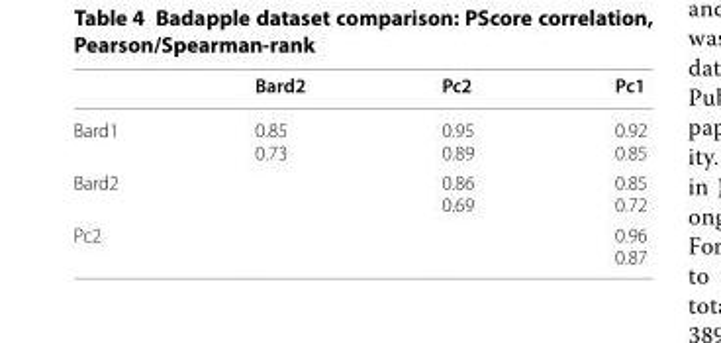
<table><thead><tr><td></td><td>Bard2</td><td>Pc2</td><td>Pc1</td></tr></thead><tbody><tr><td>Bard1</td><td>0.85 0.73</td><td>0.95 0.89</td><td>0.92 0.85</td></tr><tr><td>Bard2</td><td></td><td>0.86 0.69</td><td>0.85 0.72</td></tr><tr><td>Pc2</td><td></td><td></td><td>0.96 0.87</td></tr></tbody></table>